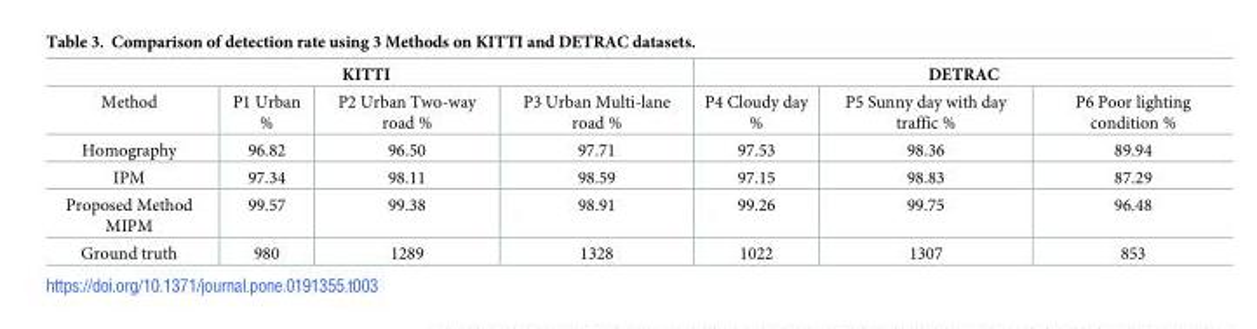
<table><thead><tr><td colspan="4">KITTI</td><td colspan="3">DETRAC</td></tr><tr><td>Method</td><td>P1 Urban %</td><td>P2 Urban Two-way road %</td><td>P3 Urban Multi-lane road %</td><td>P4 Cloudy day %</td><td>P5 Sunny day with day traffic %</td><td>P6 Poor lighting condition %</td></tr></thead><tbody><tr><td>Homography</td><td>96.82</td><td>96.50</td><td>97.71</td><td>97.53</td><td>98.36</td><td>89.94</td></tr><tr><td>IPM</td><td>97.34</td><td>98.11</td><td>98.59</td><td>97.15</td><td>98.83</td><td>87.29</td></tr><tr><td>Proposed Method MIPM</td><td>99.57</td><td>99.38</td><td>98.91</td><td>99.26</td><td>99.75</td><td>96.48</td></tr><tr><td>Ground truth</td><td>980</td><td>1289</td><td>1328</td><td>1022</td><td>1307</td><td>853</td></tr></tbody></table>